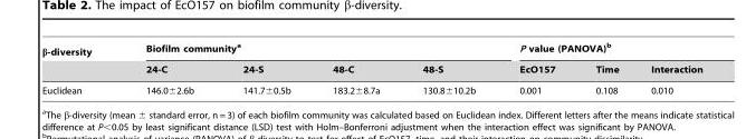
<table><thead><tr><td rowspan="2">β-diversity</td><td colspan="4">Biofilm community<sup>a</sup></td><td colspan="3">P value (PANOVA)<sup>b</sup></td></tr><tr><td>24-C</td><td>24-S</td><td>48-C</td><td>48-S</td><td>EcO157</td><td>Time</td><td>Interaction</td></tr></thead><tbody><tr><td>Euclidean</td><td>146.0±2.6b</td><td>141.7±0.5b</td><td>183.2±8.7a</td><td>130.8±10.2b</td><td>0.001</td><td>0.108</td><td>0.010</td></tr></tbody></table>